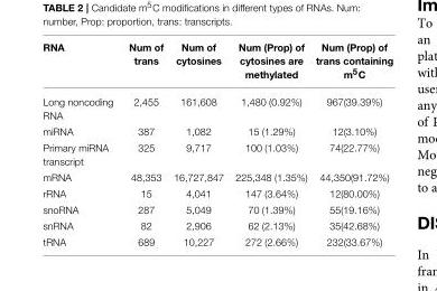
<table><thead><tr><td>RNA</td><td>Num of trans</td><td>Num of cytosines</td><td>Num (Prop) of cytosines are methylated</td><td>Num (Prop) of trans containing m<sup>5</sup>C</td></tr></thead><tbody><tr><td>Long noncoding RNA</td><td>2,455</td><td>161,608</td><td>1,480 (0.92%)</td><td>967(39.39%)</td></tr><tr><td>miRNA</td><td>387</td><td>1,082</td><td>15 (1.29%)</td><td>12(3.10%)</td></tr><tr><td>Primary miRNA transcript</td><td>325</td><td>9,717</td><td>100 (1.03%)</td><td>74(22.77%)</td></tr><tr><td>mRNA</td><td>48,353</td><td>16,727,847</td><td>225,348 (1.35%)</td><td>44,350(91.72%)</td></tr><tr><td>rRNA</td><td>15</td><td>4,041</td><td>147 (3.64%)</td><td>12(80.00%)</td></tr><tr><td>snoRNA</td><td>287</td><td>5,049</td><td>70 (1.39%)</td><td>55(19.16%)</td></tr><tr><td>snRNA</td><td>82</td><td>2,906</td><td>62 (2.13%)</td><td>35(42.68%)</td></tr><tr><td>tRNA</td><td>689</td><td>10,227</td><td>272 (2.66%)</td><td>232(33.67%)</td></tr></tbody></table>